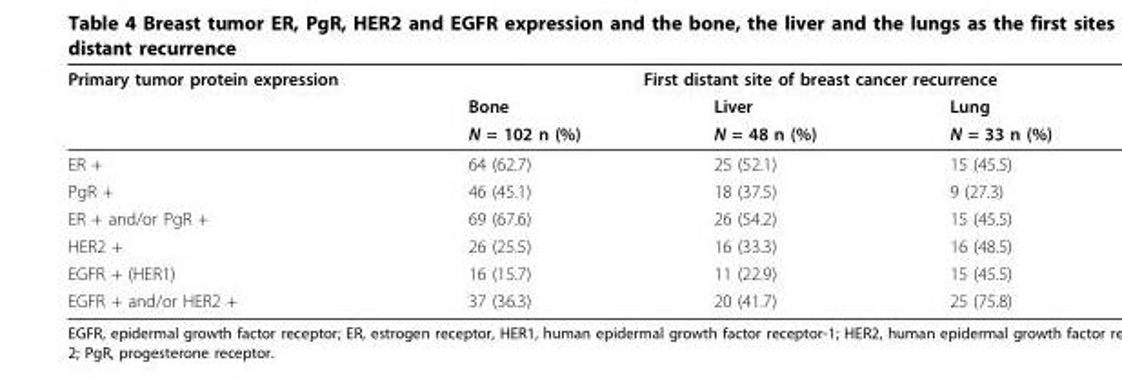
<table><thead><tr><td rowspan="3">Primary tumor protein expression</td><td colspan="3">First distant site of breast cancer recurrence</td></tr><tr><td rowspan="2">Bone N = 102 n (%)</td><td rowspan="2">Liver N = 48 n (%)</td><td rowspan="2">Lung N = 33 n (%)</td></tr><tr></tr></thead><tbody><tr><td>ER +</td><td>64 (62.7)</td><td>25 (52.1)</td><td>15 (45.5)</td></tr><tr><td>PgR +</td><td>46 (45.1)</td><td>18 (37.5)</td><td>9 (27.3)</td></tr><tr><td>ER + and/or PgR +</td><td>69 (67.6)</td><td>26 (54.2)</td><td>15 (45.5)</td></tr><tr><td>HER2 +</td><td>26 (25.5)</td><td>16 (33.3)</td><td>16 (48.5)</td></tr><tr><td>EGFR + (HER1)</td><td>16 (15.7)</td><td>11 (22.9)</td><td>15 (45.5)</td></tr><tr><td>EGFR + and/or HER2 +</td><td>37 (36.3)</td><td>20 (41.7)</td><td>25 (75.8)</td></tr></tbody></table>